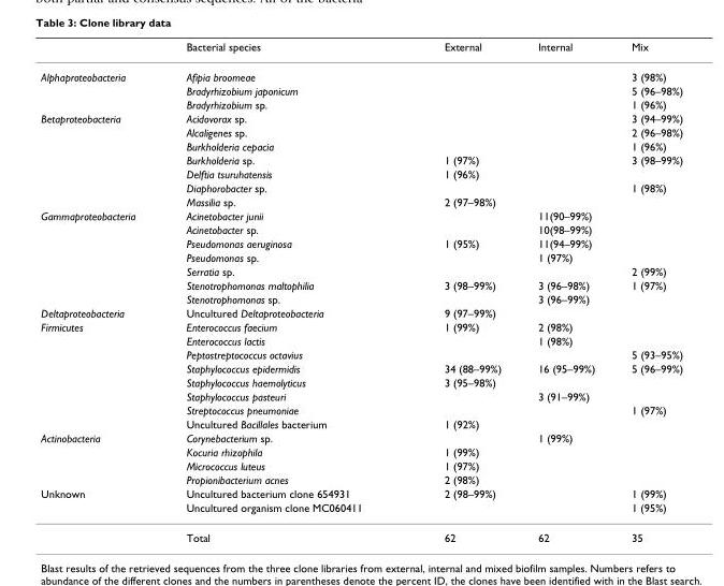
<table><thead><tr><td></td><td>Bacterial species</td><td>External</td><td>Internal</td><td>Mix</td></tr></thead><tbody><tr><td rowspan="3">Alphaproteobacteria</td><td>Afipia broomeae</td><td></td><td></td><td>3 (98%)</td></tr><tr><td>Bradyrhizobium japonicum</td><td></td><td></td><td>5 (96–98%)</td></tr><tr><td>Bradyrhizobium sp.</td><td></td><td></td><td>1 (96%)</td></tr><tr><td rowspan="7">Betaproteobacteria</td><td>Acidovorax sp.</td><td></td><td></td><td>3 (94–99%)</td></tr><tr><td>Alcaligenes sp.</td><td></td><td></td><td>2 (96–98%)</td></tr><tr><td>Burkholderia cepacia</td><td></td><td></td><td>1 (96%)</td></tr><tr><td>Burkholderia sp.</td><td>1 (97%)</td><td></td><td>3 (98–99%)</td></tr><tr><td>Delftia tsuruhatensis</td><td>1 (96%)</td><td></td><td></td></tr><tr><td>Diaphorobacter sp.</td><td></td><td></td><td>1 (98%)</td></tr><tr><td>Massilia sp.</td><td>2 (97–98%)</td><td></td><td></td></tr><tr><td rowspan="7">Gammaproteobacteria</td><td>Acinetobacter junii</td><td></td><td>11(90–99%)</td><td></td></tr><tr><td>Acinetobacter sp.</td><td></td><td>10(98–99%)</td><td></td></tr><tr><td>Pseudomonas aeruginosa</td><td>1 (95%)</td><td>11(94–99%)</td><td></td></tr><tr><td>Pseudomonas sp.</td><td></td><td>1 (97%)</td><td></td></tr><tr><td>Serratia sp.</td><td></td><td></td><td>2 (99%)</td></tr><tr><td>Stenotrophomonas maltophilia</td><td>3 (98–99%)</td><td>3 (96–98%)</td><td>1 (97%)</td></tr><tr><td>Stenotrophomonas sp.</td><td></td><td>3 (96–99%)</td><td></td></tr><tr><td>Deltaproteobacteria</td><td>Uncultured Deltaproteobacteria</td><td>9 (97–99%)</td><td></td><td></td></tr><tr><td rowspan="8">Firmicutes</td><td>Enterococcus faecium</td><td>1 (99%)</td><td>2 (98%)</td><td></td></tr><tr><td>Enterococcus lactis</td><td></td><td>1 (98%)</td><td></td></tr><tr><td>Peptostreptococcus octavius</td><td></td><td></td><td>5 (93–95%)</td></tr><tr><td>Staphylococcus epidermidis</td><td>34 (88–99%)</td><td>16 (95–99%)</td><td>5 (96–99%)</td></tr><tr><td>Staphylococcus haemolyticus</td><td>3 (95–98%)</td><td></td><td></td></tr><tr><td>Staphylococcus pasteuri</td><td></td><td>3 (91–99%)</td><td></td></tr><tr><td>Streptococcus pneumoniae</td><td></td><td></td><td>1 (97%)</td></tr><tr><td>Uncultured Bacillales bacterium</td><td>1 (92%)</td><td></td><td></td></tr><tr><td rowspan="4">Actinobacteria</td><td>Corynebacterium sp.</td><td></td><td>1 (99%)</td><td></td></tr><tr><td>Kocuria rhizophila</td><td>1 (99%)</td><td></td><td></td></tr><tr><td>Micrococcus luteus</td><td>1 (97%)</td><td></td><td></td></tr><tr><td>Propionibacterium acnes</td><td>2 (98%)</td><td></td><td></td></tr><tr><td rowspan="3">Unknown</td><td>Uncultured bacterium clone 654931</td><td>2 (98–99%)</td><td></td><td>1 (99%)</td></tr><tr><td>Uncultured organism clone MC060411</td><td></td><td></td><td>1 (95%)</td></tr><tr><td>Total</td><td>62</td><td>62</td><td>35</td></tr></tbody></table>